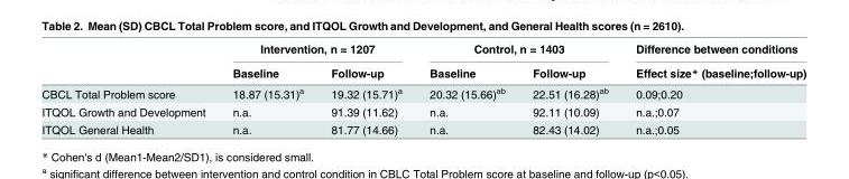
<table><thead><tr><td rowspan="2"></td><td colspan="2">Intervention, n = 1207</td><td colspan="2">Control, n = 1403</td><td rowspan="2">Difference between conditions Effect size* (baseline;follow-up)</td></tr><tr><td>Baseline</td><td>Follow-up</td><td>Baseline</td><td>Follow-up</td></tr></thead><tbody><tr><td>CBCL Total Problem score</td><td>18.87 (15.31)<sup>a</sup></td><td>19.32 (15.71)<sup>a</sup></td><td>20.32 (15.66)<sup>ab</sup></td><td>22.51 (16.28)<sup>ab</sup></td><td>0.09;0.20</td></tr><tr><td>ITQOL Growth and Development</td><td>n.a.</td><td>91.39 (11.62)</td><td>n.a.</td><td>92.11 (10.09)</td><td>n.a.;0.07</td></tr><tr><td>ITQOL General Health</td><td>n.a.</td><td>81.77 (14.66)</td><td>n.a.</td><td>82.43 (14.02)</td><td>n.a.;0.05</td></tr></tbody></table>